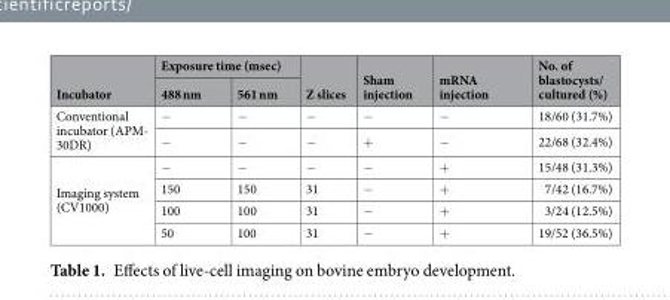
<table><thead><tr><td rowspan="2">Incubator</td><td colspan="2">Exposure time (msec)</td><td rowspan="2">Z slices</td><td rowspan="2">Sham injection</td><td rowspan="2">mRNA injection</td><td rowspan="2">No. of blastocysts/ cultured (%)</td></tr><tr><td>488 nm</td><td>561 nm</td></tr></thead><tbody><tr><td rowspan="2">Conventional incubator (APM- 30DR)</td><td>−</td><td>−</td><td>−</td><td>−</td><td>−</td><td>18/60 (31.7%)</td></tr><tr><td>−</td><td>−</td><td>−</td><td>+</td><td>−</td><td>22/68 (32.4%)</td></tr><tr><td rowspan="4">Imaging system (CV1000)</td><td>−</td><td>−</td><td>−</td><td>−</td><td>+</td><td>15/48 (31.3%)</td></tr><tr><td>150</td><td>150</td><td>31</td><td>−</td><td>+</td><td>7/42 (16.7%)</td></tr><tr><td>100</td><td>100</td><td>31</td><td>−</td><td>+</td><td>3/24 (12.5%)</td></tr><tr><td>50</td><td>100</td><td>31</td><td>−</td><td>+</td><td>19/52 (36.5%)</td></tr></tbody></table>